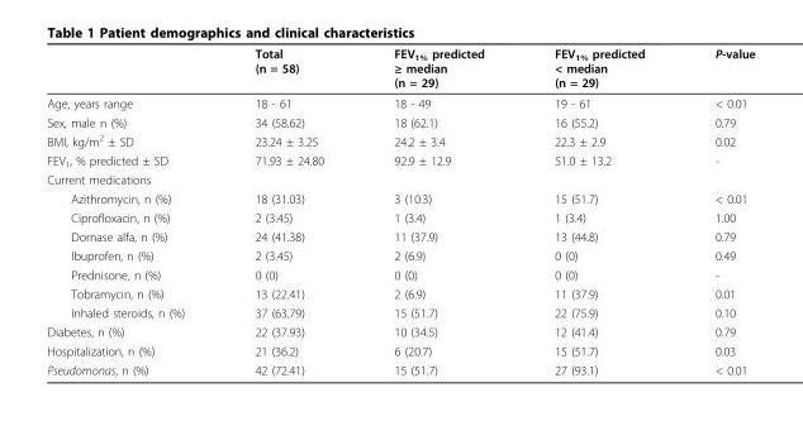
<table><thead><tr><td></td><td>Total (n = 58)</td><td>FEV<sub>1%</sub> predicted ≥ median (n = 29)</td><td>FEV<sub>1%</sub> predicted &lt; median (n = 29)</td><td>P-value</td></tr></thead><tbody><tr><td>Age, years range</td><td>18 - 61</td><td>18 - 49</td><td>19 - 61</td><td>&lt; 0.01</td></tr><tr><td>Sex, male n (%)</td><td>34 (58.62)</td><td>18 (62.1)</td><td>16 (55.2)</td><td>0.79</td></tr><tr><td>BMI, kg/m<sup>2</sup> ± SD</td><td>23.24 ± 3.25</td><td>24.2 ± 3.4</td><td>22.3 ± 2.9</td><td>0.02</td></tr><tr><td>FEV<sub>1</sub>, % predicted ± SD</td><td>71.93 ± 24.80</td><td>92.9 ± 12.9</td><td>51.0 ± 13.2</td><td>-</td></tr><tr><td colspan="5">Current medications</td></tr><tr><td>Azithromycin, n (%)</td><td>18 (31.03)</td><td>3 (10.3)</td><td>15 (51.7)</td><td>&lt; 0.01</td></tr><tr><td>Ciprofloxacin, n (%)</td><td>2 (3.45)</td><td>1 (3.4)</td><td>1 (3.4)</td><td>1.00</td></tr><tr><td>Dornase alfa, n (%)</td><td>24 (41.38)</td><td>11 (37.9)</td><td>13 (44.8)</td><td>0.79</td></tr><tr><td>Ibuprofen, n (%)</td><td>2 (3.45)</td><td>2 (6.9)</td><td>0 (0)</td><td>0.49</td></tr><tr><td>Prednisone, n (%)</td><td>0 (0)</td><td>0 (0)</td><td>0 (0)</td><td>-</td></tr><tr><td>Tobramycin, n (%)</td><td>13 (22.41)</td><td>2 (6.9)</td><td>11 (37.9)</td><td>0.01</td></tr><tr><td>Inhaled steroids, n (%)</td><td>37 (63.79)</td><td>15 (51.7)</td><td>22 (75.9)</td><td>0.10</td></tr><tr><td>Diabetes, n (%)</td><td>22 (37.93)</td><td>10 (34.5)</td><td>12 (41.4)</td><td>0.79</td></tr><tr><td>Hospitalization, n (%)</td><td>21 (36.2)</td><td>6 (20.7)</td><td>15 (51.7)</td><td>0.03</td></tr><tr><td>Pseudomonas, n (%)</td><td>42 (72.41)</td><td>15 (51.7)</td><td>27 (93.1)</td><td>&lt; 0.01</td></tr></tbody></table>